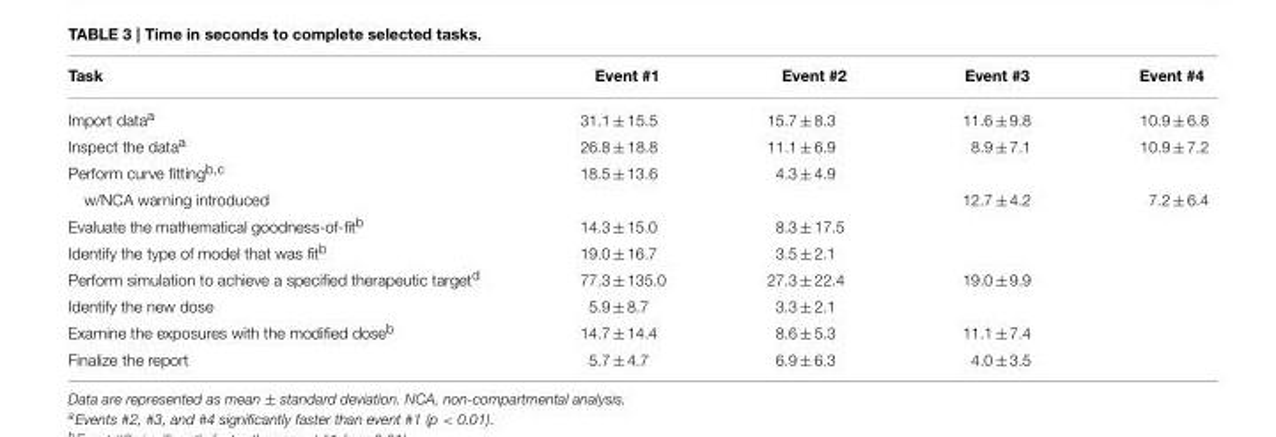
<table><thead><tr><td>Task</td><td>Event #1</td><td>Event #2</td><td>Event #3</td><td>Event #4</td></tr></thead><tbody><tr><td>Import data<sup>a</sup></td><td>31.1 ± 15.5</td><td>15.7 ± 8.3</td><td>11.6 ± 9.8</td><td>10.9 ± 6.8</td></tr><tr><td>Inspect the data<sup>a</sup></td><td>26.8 ± 18.8</td><td>11.1 ± 6.9</td><td>8.9 ± 7.1</td><td>10.9 ± 7.2</td></tr><tr><td>Perform curve fitting<sup>b</sup>,<sup>c</sup></td><td>18.5 ± 13.6</td><td>4.3 ± 4.9</td><td></td><td></td></tr><tr><td>w/NCA warning introduced</td><td></td><td></td><td>12.7 ± 4.2</td><td>7.2 ± 6.4</td></tr><tr><td>Evaluate the mathematical goodness-of-fit<sup>b</sup></td><td>14.3 ± 15.0</td><td>8.3 ± 17.5</td><td></td><td></td></tr><tr><td>Identify the type of model that was fit<sup>b</sup></td><td>19.0 ± 16.7</td><td>3.5 ± 2.1</td><td></td><td></td></tr><tr><td>Perform simulation to achieve a specified therapeutic target<sup>d</sup></td><td>77.3 ± 135.0</td><td>27.3 ± 22.4</td><td>19.0 ± 9.9</td><td></td></tr><tr><td>Identify the new dose</td><td>5.9 ± 8.7</td><td>3.3 ± 2.1</td><td></td><td></td></tr><tr><td>Examine the exposures with the modified dose<sup>b</sup></td><td>14.7 ± 14.4</td><td>8.6 ± 5.3</td><td>11.1 ± 7.4</td><td></td></tr><tr><td>Finalize the report</td><td>5.7 ± 4.7</td><td>6.9 ± 6.3</td><td>4.0 ± 3.5</td><td></td></tr></tbody></table>